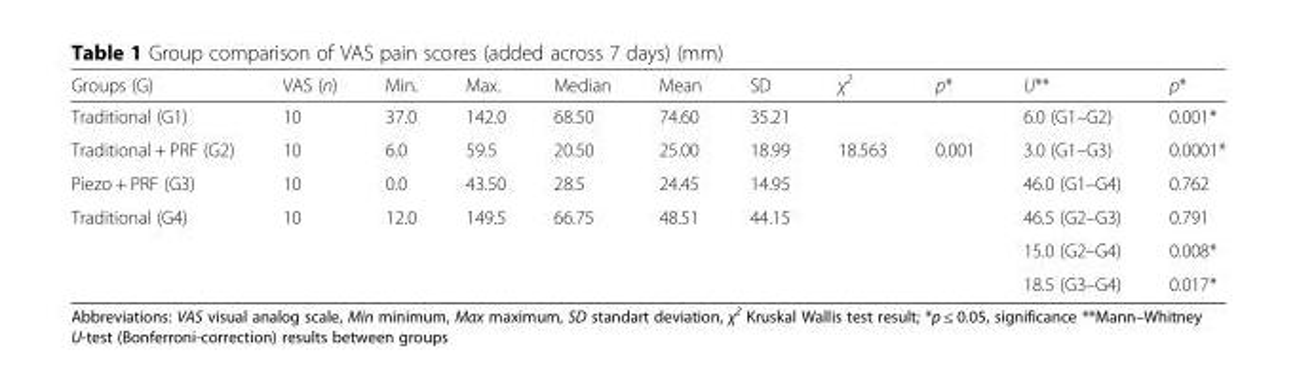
<table><thead><tr><td>Groups (G)</td><td>VAS (n)</td><td>Min.</td><td>Max.</td><td>Median</td><td>Mean</td><td>SD</td><td>χ<sup>2</sup></td><td>p*</td><td>U**</td><td>p*</td></tr></thead><tbody><tr><td>Traditional (G1)</td><td>10</td><td>37.0</td><td>142.0</td><td>68.50</td><td>74.60</td><td>35.21</td><td></td><td></td><td>6.0 (G1–G2)</td><td>0.001*</td></tr><tr><td>Traditional + PRF (G2)</td><td>10</td><td>6.0</td><td>59.5</td><td>20.50</td><td>25.00</td><td>18.99</td><td>18.563</td><td>0.001</td><td>3.0 (G1–G3)</td><td>0.0001*</td></tr><tr><td>Piezo + PRF (G3)</td><td>10</td><td>0.0</td><td>43.50</td><td>28.5</td><td>24.45</td><td>14.95</td><td></td><td></td><td>46.0 (G1–G4)</td><td>0.762</td></tr><tr><td rowspan="3">Traditional (G4)</td><td>10</td><td>12.0</td><td>149.5</td><td>66.75</td><td>48.51</td><td>44.15</td><td></td><td></td><td>46.5 (G2–G3)</td><td>0.791</td></tr><tr><td></td><td></td><td></td><td></td><td></td><td></td><td></td><td></td><td>15.0 (G2–G4)</td><td>0.008*</td></tr><tr><td></td><td></td><td></td><td></td><td></td><td></td><td></td><td></td><td>18.5 (G3–G4)</td><td>0.017*</td></tr></tbody></table>